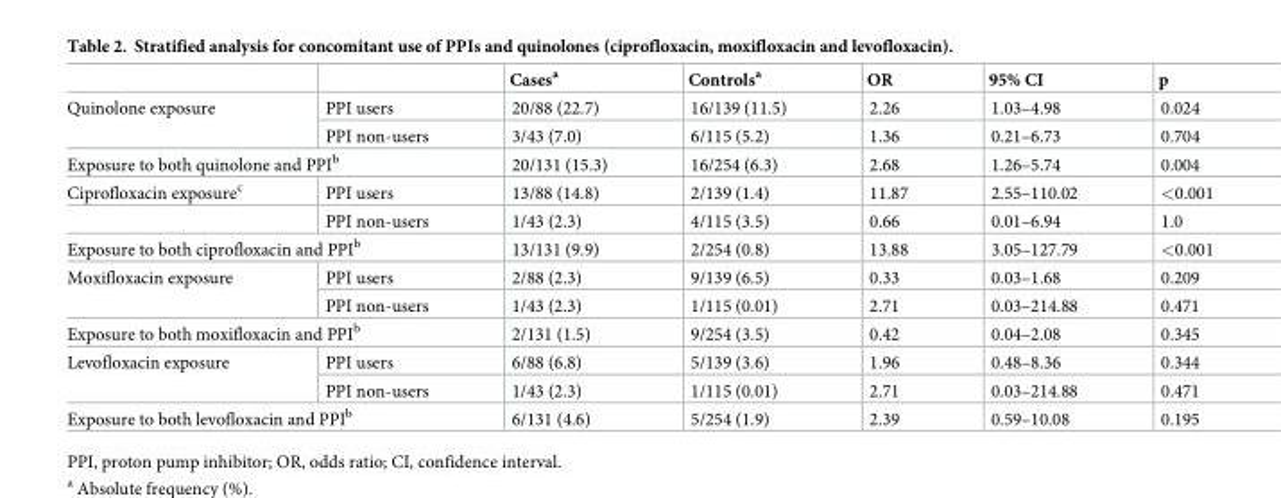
<table><thead><tr><td></td><td></td><td>Cases<sup>a</sup></td><td>Controls<sup>a</sup></td><td>OR</td><td>95% CI</td><td>p</td></tr></thead><tbody><tr><td rowspan="2">Quinolone exposure</td><td>PPI users</td><td>20/88 (22.7)</td><td>16/139 (11.5)</td><td>2.26</td><td>1.03–4.98</td><td>0.024</td></tr><tr><td>PPI non-users</td><td>3/43 (7.0)</td><td>6/115 (5.2)</td><td>1.36</td><td>0.21–6.73</td><td>0.704</td></tr><tr><td colspan="2">Exposure to both quinolone and PPI<sup>b</sup></td><td>20/131 (15.3)</td><td>16/254 (6.3)</td><td>2.68</td><td>1.26–5.74</td><td>0.004</td></tr><tr><td rowspan="2">Ciprofloxacin exposure<sup>c</sup></td><td>PPI users</td><td>13/88 (14.8)</td><td>2/139 (1.4)</td><td>11.87</td><td>2.55–110.02</td><td>&lt;0.001</td></tr><tr><td>PPI non-users</td><td>1/43 (2.3)</td><td>4/115 (3.5)</td><td>0.66</td><td>0.01–6.94</td><td>1.0</td></tr><tr><td colspan="2">Exposure to both ciprofloxacin and PPI<sup>b</sup></td><td>13/131 (9.9)</td><td>2/254 (0.8)</td><td>13.88</td><td>3.05–127.79</td><td>&lt;0.001</td></tr><tr><td rowspan="2">Moxifloxacin exposure</td><td>PPI users</td><td>2/88 (2.3)</td><td>9/139 (6.5)</td><td>0.33</td><td>0.03–1.68</td><td>0.209</td></tr><tr><td>PPI non-users</td><td>1/43 (2.3)</td><td>1/115 (0.01)</td><td>2.71</td><td>0.03–214.88</td><td>0.471</td></tr><tr><td colspan="2">Exposure to both moxifloxacin and PPI<sup>b</sup></td><td>2/131 (1.5)</td><td>9/254 (3.5)</td><td>0.42</td><td>0.04–2.08</td><td>0.345</td></tr><tr><td rowspan="2">Levofloxacin exposure</td><td>PPI users</td><td>6/88 (6.8)</td><td>5/139 (3.6)</td><td>1.96</td><td>0.48–8.36</td><td>0.344</td></tr><tr><td>PPI non-users</td><td>1/43 (2.3)</td><td>1/115 (0.01)</td><td>2.71</td><td>0.03–214.88</td><td>0.471</td></tr><tr><td colspan="2">Exposure to both levofloxacin and PPI<sup>b</sup></td><td>6/131 (4.6)</td><td>5/254 (1.9)</td><td>2.39</td><td>0.59–10.08</td><td>0.195</td></tr></tbody></table>